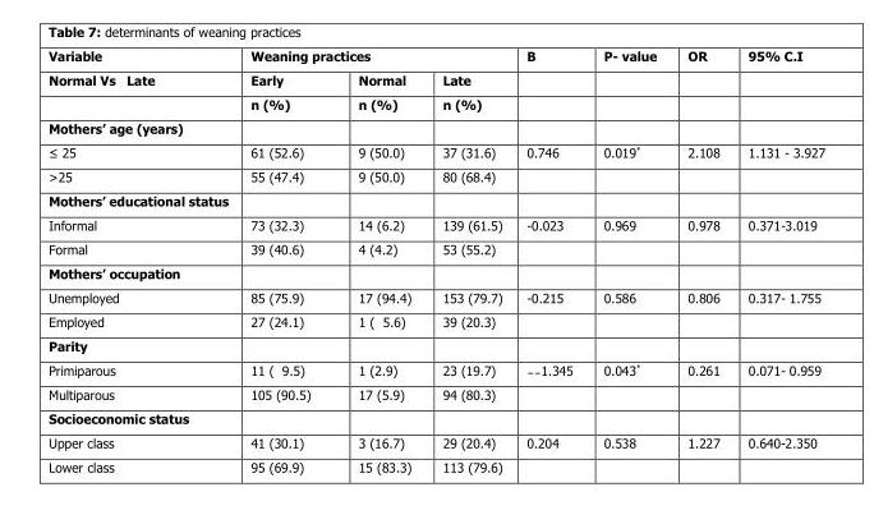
<table><thead><tr><td rowspan="3">Variable Normal Vs Late</td><td colspan="3">Weaning practices</td><td rowspan="3">B</td><td rowspan="3">P- value</td><td rowspan="3">OR</td><td rowspan="3">95% C.I</td></tr><tr><td rowspan="2">Early n (%)</td><td rowspan="2">Normal n (%)</td><td rowspan="2">Late n (%)</td></tr><tr></tr></thead><tbody><tr><td colspan="8">Mothers’ age (years)</td></tr><tr><td>≤ 25</td><td>61 (52.6)</td><td>9 (50.0)</td><td>37 (31.6)</td><td>0.746</td><td>0.019*</td><td>2.108</td><td>1.131 - 3.927</td></tr><tr><td>&gt;25</td><td>55 (47.4)</td><td>9 (50.0)</td><td>80 (68.4)</td><td></td><td></td><td></td><td></td></tr><tr><td colspan="8">Mothers’ educational status</td></tr><tr><td>Informal</td><td>73 (32.3)</td><td>14 (6.2)</td><td>139 (61.5)</td><td>-0.023</td><td>0.969</td><td>0.978</td><td>0.371-3.019</td></tr><tr><td>Formal</td><td>39 (40.6)</td><td>4 (4.2)</td><td>53 (55.2)</td><td></td><td></td><td></td><td></td></tr><tr><td colspan="8">Mothers’ occupation</td></tr><tr><td>Unemployed</td><td>85 (75.9)</td><td>17 (94.4)</td><td>153 (79.7)</td><td>-0.215</td><td>0.586</td><td>0.806</td><td>0.317- 1.755</td></tr><tr><td>Employed</td><td>27 (24.1)</td><td>1 ( 5.6)</td><td>39 (20.3)</td><td></td><td></td><td></td><td></td></tr><tr><td colspan="8">Parity</td></tr><tr><td>Primiparous</td><td>11 ( 9.5)</td><td>1 (2.9)</td><td>23 (19.7)</td><td>˗˗1.345</td><td>0.043*</td><td>0.261</td><td>0.071- 0.959</td></tr><tr><td>Multiparous</td><td>105 (90.5)</td><td>17 (5.9)</td><td>94 (80.3)</td><td></td><td></td><td></td><td></td></tr><tr><td colspan="8">Socioeconomic status</td></tr><tr><td>Upper class</td><td>41 (30.1)</td><td>3 (16.7)</td><td>29 (20.4)</td><td>0.204</td><td>0.538</td><td>1.227</td><td>0.640-2.350</td></tr><tr><td>Lower class</td><td>95 (69.9)</td><td>15 (83.3)</td><td>113 (79.6)</td><td></td><td></td><td></td><td></td></tr></tbody></table>